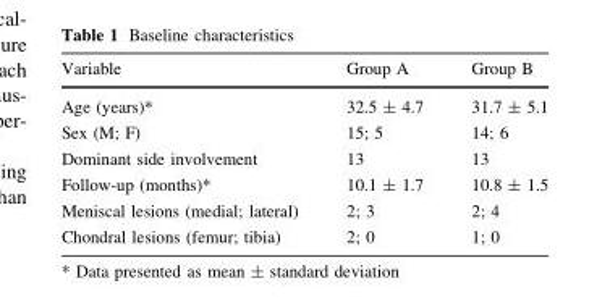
<table><thead><tr><td>Variable</td><td>Group A</td><td>Group B</td></tr></thead><tbody><tr><td>Age (years)*</td><td>32.5 ± 4.7</td><td>31.7 ± 5.1</td></tr><tr><td>Sex (M; F)</td><td>15; 5</td><td>14; 6</td></tr><tr><td>Dominant side involvement</td><td>13</td><td>13</td></tr><tr><td>Follow-up (months)*</td><td>10.1 ± 1.7</td><td>10.8 ± 1.5</td></tr><tr><td>Meniscal lesions (medial; lateral)</td><td>2; 3</td><td>2; 4</td></tr><tr><td>Chondral lesions (femur; tibia)</td><td>2; 0</td><td>1; 0</td></tr></tbody></table>